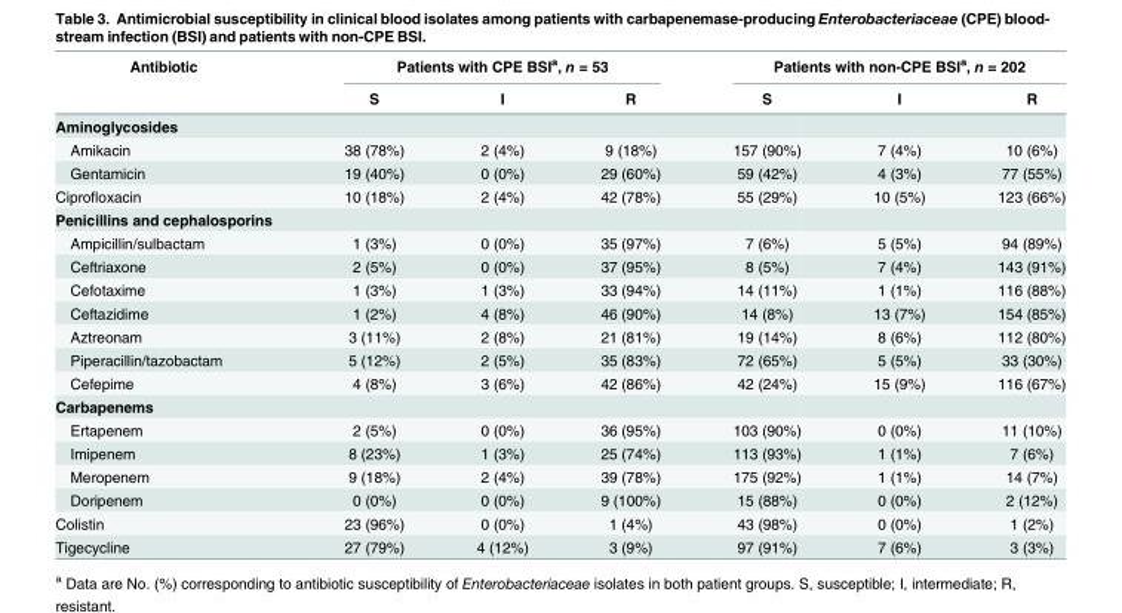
<table><thead><tr><td rowspan="2">Antibiotic</td><td colspan="3">Patients with CPE BSI<sup>a</sup>, n = 53</td><td colspan="3">Patients with non-CPE BSI<sup>a</sup>, n = 202</td></tr><tr><td>S</td><td>I</td><td>R</td><td>S</td><td>I</td><td>R</td></tr></thead><tbody><tr><td colspan="7">Aminoglycosides</td></tr><tr><td>Amikacin</td><td>38 (78%)</td><td>2 (4%)</td><td>9 (18%)</td><td>157 (90%)</td><td>7 (4%)</td><td>10 (6%)</td></tr><tr><td>Gentamicin</td><td>19 (40%)</td><td>0 (0%)</td><td>29 (60%)</td><td>59 (42%)</td><td>4 (3%)</td><td>77 (55%)</td></tr><tr><td>Ciprofloxacin</td><td>10 (18%)</td><td>2 (4%)</td><td>42 (78%)</td><td>55 (29%)</td><td>10 (5%)</td><td>123 (66%)</td></tr><tr><td colspan="7">Penicillins and cephalosporins</td></tr><tr><td>Ampicillin/sulbactam</td><td>1 (3%)</td><td>0 (0%)</td><td>35 (97%)</td><td>7 (6%)</td><td>5 (5%)</td><td>94 (89%)</td></tr><tr><td>Ceftriaxone</td><td>2 (5%)</td><td>0 (0%)</td><td>37 (95%)</td><td>8 (5%)</td><td>7 (4%)</td><td>143 (91%)</td></tr><tr><td>Cefotaxime</td><td>1 (3%)</td><td>1 (3%)</td><td>33 (94%)</td><td>14 (11%)</td><td>1 (1%)</td><td>116 (88%)</td></tr><tr><td>Ceftazidime</td><td>1 (2%)</td><td>4 (8%)</td><td>46 (90%)</td><td>14 (8%)</td><td>13 (7%)</td><td>154 (85%)</td></tr><tr><td>Aztreonam</td><td>3 (11%)</td><td>2 (8%)</td><td>21 (81%)</td><td>19 (14%)</td><td>8 (6%)</td><td>112 (80%)</td></tr><tr><td>Piperacillin/tazobactam</td><td>5 (12%)</td><td>2 (5%)</td><td>35 (83%)</td><td>72 (65%)</td><td>5 (5%)</td><td>33 (30%)</td></tr><tr><td>Cefepime</td><td>4 (8%)</td><td>3 (6%)</td><td>42 (86%)</td><td>42 (24%)</td><td>15 (9%)</td><td>116 (67%)</td></tr><tr><td colspan="7">Carbapenems</td></tr><tr><td>Ertapenem</td><td>2 (5%)</td><td>0 (0%)</td><td>36 (95%)</td><td>103 (90%)</td><td>0 (0%)</td><td>11 (10%)</td></tr><tr><td>Imipenem</td><td>8 (23%)</td><td>1 (3%)</td><td>25 (74%)</td><td>113 (93%)</td><td>1 (1%)</td><td>7 (6%)</td></tr><tr><td>Meropenem</td><td>9 (18%)</td><td>2 (4%)</td><td>39 (78%)</td><td>175 (92%)</td><td>1 (1%)</td><td>14 (7%)</td></tr><tr><td>Doripenem</td><td>0 (0%)</td><td>0 (0%)</td><td>9 (100%)</td><td>15 (88%)</td><td>0 (0%)</td><td>2 (12%)</td></tr><tr><td>Colistin</td><td>23 (96%)</td><td>0 (0%)</td><td>1 (4%)</td><td>43 (98%)</td><td>0 (0%)</td><td>1 (2%)</td></tr><tr><td>Tigecycline</td><td>27 (79%)</td><td>4 (12%)</td><td>3 (9%)</td><td>97 (91%)</td><td>7 (6%)</td><td>3 (3%)</td></tr></tbody></table>